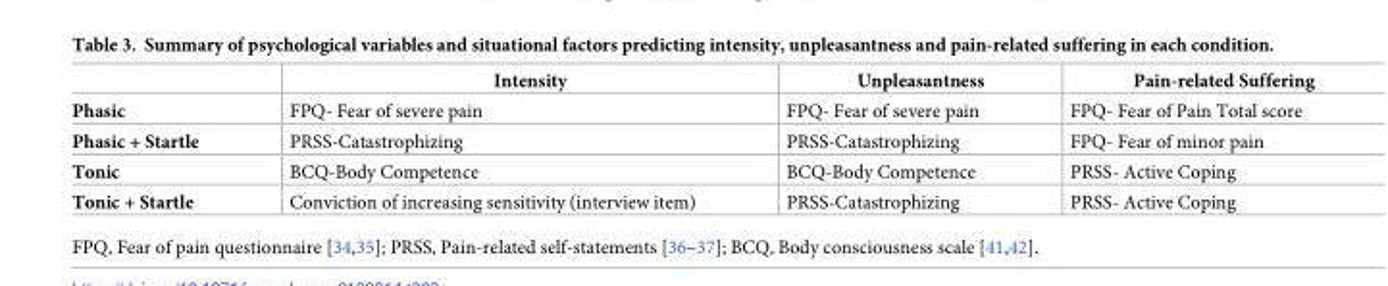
<table><thead><tr><td></td><td>Intensity</td><td>Unpleasantness</td><td>Pain-related Suffering</td></tr></thead><tbody><tr><td>Phasic</td><td>FPQ- Fear of severe pain</td><td>FPQ- Fear of severe pain</td><td>FPQ- Fear of Pain Total score</td></tr><tr><td>Phasic + Startle</td><td>PRSS-Catastrophizing</td><td>PRSS-Catastrophizing</td><td>FPQ- Fear of minor pain</td></tr><tr><td>Tonic</td><td>BCQ-Body Competence</td><td>BCQ-Body Competence</td><td>PRSS- Active Coping</td></tr><tr><td>Tonic + Startle</td><td>Conviction of increasing sensitivity (interview item)</td><td>PRSS-Catastrophizing</td><td>PRSS- Active Coping</td></tr></tbody></table>